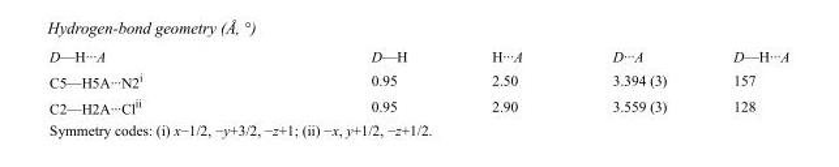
<table><tbody><tr><td>D—H···A</td><td>D—H</td><td>H···A</td><td>D···A</td><td>D—H···A</td></tr><tr><td>C5—H5A···N2<sup>i</sup></td><td>0.95</td><td>2.50</td><td>3.394 (3)</td><td>157</td></tr><tr><td>C2—H2A···Cl<sup>ii</sup></td><td>0.95</td><td>2.90</td><td>3.559 (3)</td><td>128</td></tr></tbody></table>